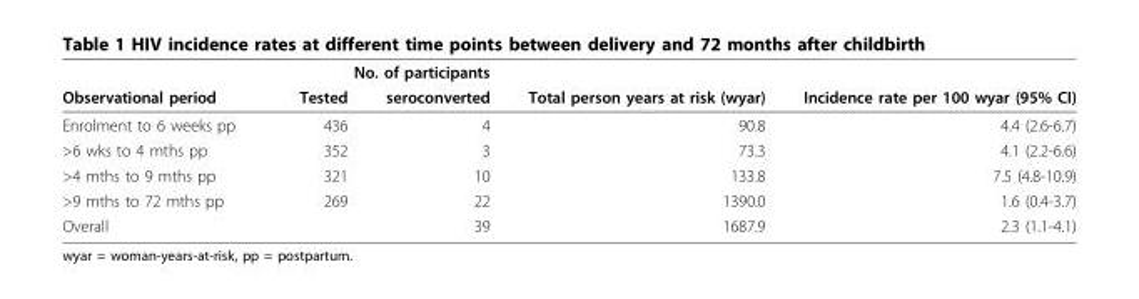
<table><thead><tr><td rowspan="2">Observational period</td><td colspan="2">No. of participants</td><td rowspan="2">Total person years at risk (wyar)</td><td rowspan="2">Incidence rate per 100 wyar (95% CI)</td></tr><tr><td>Tested</td><td>seroconverted</td></tr></thead><tbody><tr><td>Enrolment to 6 weeks pp</td><td>436</td><td>4</td><td>90.8</td><td>4.4 (2.6-6.7)</td></tr><tr><td>&gt;6 wks to 4 mths pp</td><td>352</td><td>3</td><td>73.3</td><td>4.1 (2.2-6.6)</td></tr><tr><td>&gt;4 mths to 9 mths pp</td><td>321</td><td>10</td><td>133.8</td><td>7.5 (4.8-10.9)</td></tr><tr><td>&gt;9 mths to 72 mths pp</td><td>269</td><td>22</td><td>1390.0</td><td>1.6 (0.4-3.7)</td></tr><tr><td>Overall</td><td></td><td>39</td><td>1687.9</td><td>2.3 (1.1-4.1)</td></tr></tbody></table>